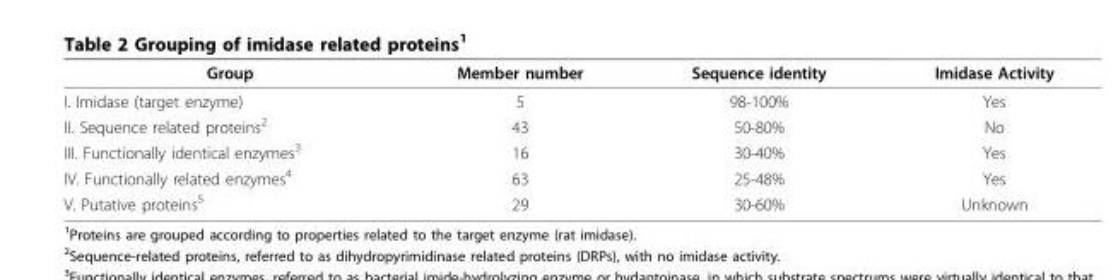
<table><thead><tr><td>Group</td><td>Member number</td><td>Sequence identity</td><td>Imidase Activity</td></tr></thead><tbody><tr><td>I. Imidase (target enzyme)</td><td>5</td><td>98-100%</td><td>Yes</td></tr><tr><td>II. Sequence related proteins<sup>2</sup></td><td>43</td><td>50-80%</td><td>No</td></tr><tr><td>III. Functionally identical enzymes<sup>3</sup></td><td>16</td><td>30-40%</td><td>Yes</td></tr><tr><td>IV. Functionally related enzymes<sup>4</sup></td><td>63</td><td>25-48%</td><td>Yes</td></tr><tr><td>V. Putative proteins<sup>5</sup></td><td>29</td><td>30-60%</td><td>Unknown</td></tr></tbody></table>